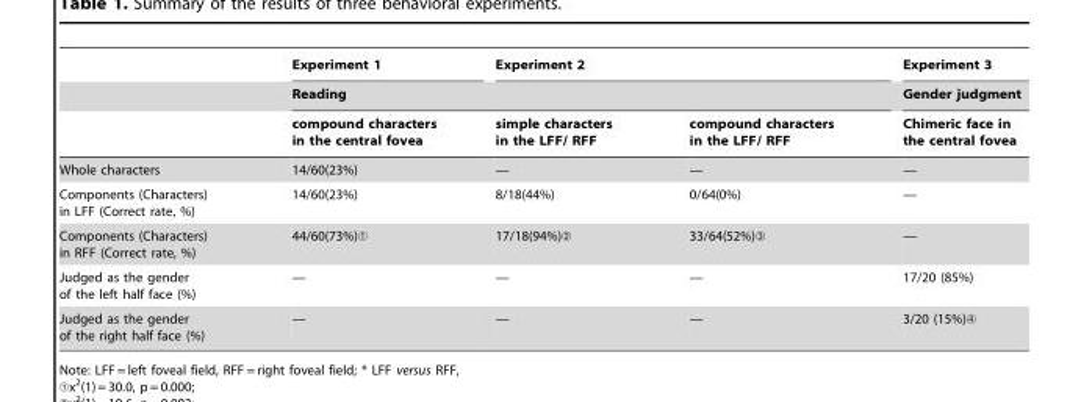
<table><thead><tr><td rowspan="3"></td><td>Experiment 1</td><td colspan="2">Experiment 2</td><td rowspan="3">Experiment 3 Gender judgment Chimeric face in the central fovea</td></tr><tr><td colspan="3">Reading</td></tr><tr><td>compound characters in the central fovea</td><td>simple characters in the LFF/ RFF</td><td>compound characters in the LFF/ RFF</td></tr></thead><tbody><tr><td>Whole characters</td><td>14/60(23%)</td><td>—</td><td>—</td><td>—</td></tr><tr><td>Components (Characters) in LFF (Correct rate, %)</td><td>14/60(23%)</td><td>8/18(44%)</td><td>0/64(0%)</td><td>—</td></tr><tr><td>Components (Characters) in RFF (Correct rate, %)</td><td>44/60(73%)A</td><td>17/18(94%)B</td><td>33/64(52%)C</td><td>—</td></tr><tr><td>Judged as the gender of the left half face (%)</td><td>—</td><td>—</td><td>—</td><td>17/20 (85%)</td></tr><tr><td>Judged as the gender of the right half face (%)</td><td>—</td><td>—</td><td>—</td><td>3/20 (15%)D</td></tr></tbody></table>